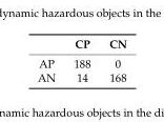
<table><thead><tr><td></td><td>CP</td><td>CN</td></tr></thead><tbody><tr><td>AP</td><td>188</td><td>0</td></tr><tr><td>AN</td><td>14</td><td>168</td></tr></tbody></table>